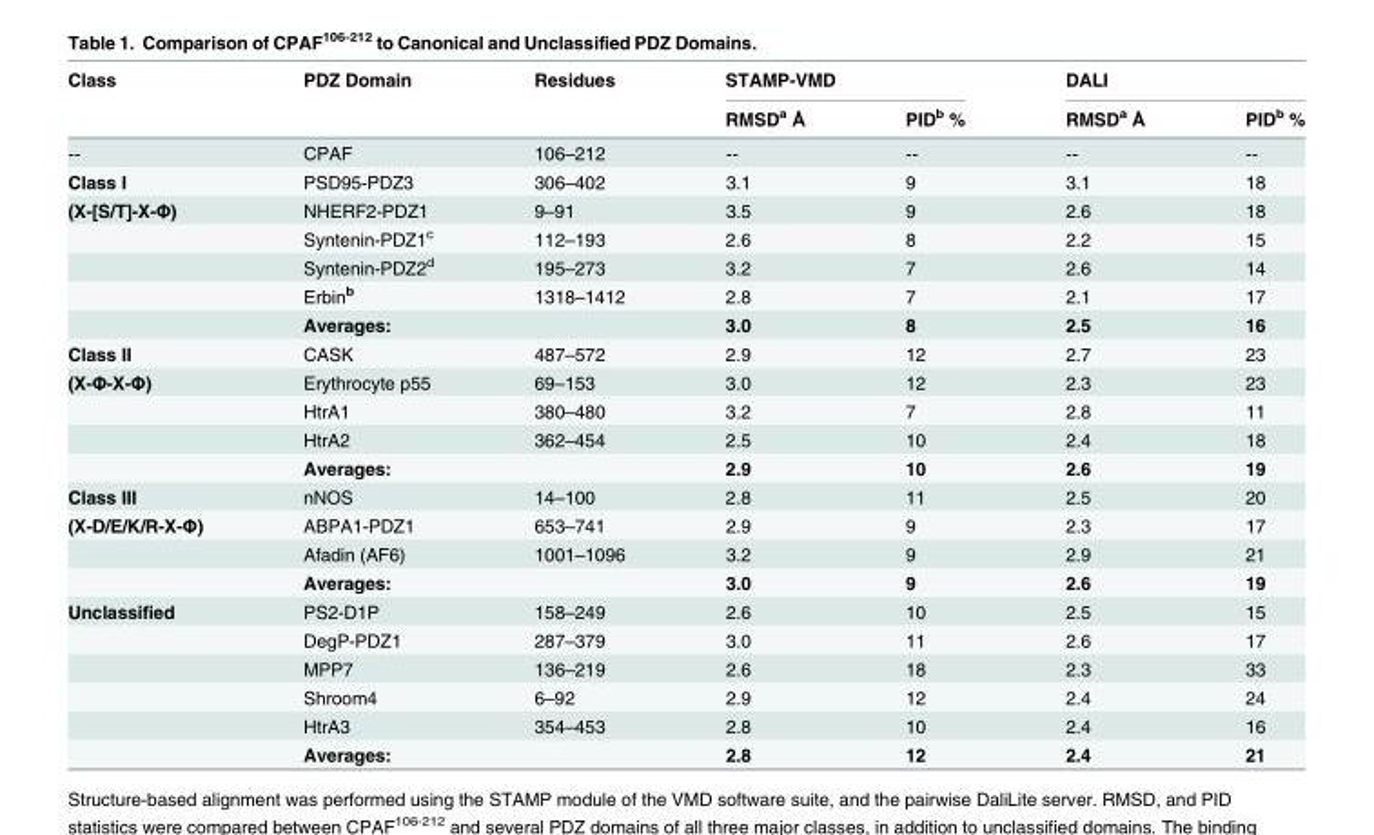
<table><thead><tr><td rowspan="2">Class</td><td rowspan="2">PDZ Domain</td><td rowspan="2">Residues</td><td colspan="2">STAMP-VMD</td><td colspan="2">DALI</td></tr><tr><td>RMSD<sup>a</sup> Å</td><td>PID<sup>b</sup> %</td><td>RMSD<sup>a</sup> Å</td><td>PID<sup>b</sup> %</td></tr></thead><tbody><tr><td>--</td><td>CPAF</td><td>106–212</td><td>--</td><td>--</td><td>--</td><td>--</td></tr><tr><td>Class I</td><td>PSD95-PDZ3</td><td>306–402</td><td>3.1</td><td>9</td><td>3.1</td><td>18</td></tr><tr><td rowspan="5">(X-[S/T]-X-Φ)</td><td>NHERF2-PDZ1</td><td>9–91</td><td>3.5</td><td>9</td><td>2.6</td><td>18</td></tr><tr><td>Syntenin-PDZ1<sup>c</sup></td><td>112–193</td><td>2.6</td><td>8</td><td>2.2</td><td>15</td></tr><tr><td>Syntenin-PDZ2<sup>d</sup></td><td>195–273</td><td>3.2</td><td>7</td><td>2.6</td><td>14</td></tr><tr><td>Erbin<sup>b</sup></td><td>1318–1412</td><td>2.8</td><td>7</td><td>2.1</td><td>17</td></tr><tr><td colspan="2">Averages:</td><td>3.0</td><td>8</td><td>2.5</td><td>16</td></tr><tr><td>Class II</td><td>CASK</td><td>487–572</td><td>2.9</td><td>12</td><td>2.7</td><td>23</td></tr><tr><td rowspan="4">(X-Φ-X-Φ)</td><td>Erythrocyte p55</td><td>69–153</td><td>3.0</td><td>12</td><td>2.3</td><td>23</td></tr><tr><td>HtrA1</td><td>380–480</td><td>3.2</td><td>7</td><td>2.8</td><td>11</td></tr><tr><td>HtrA2</td><td>362–454</td><td>2.5</td><td>10</td><td>2.4</td><td>18</td></tr><tr><td colspan="2">Averages:</td><td>2.9</td><td>10</td><td>2.6</td><td>19</td></tr><tr><td>Class III</td><td>nNOS</td><td>14–100</td><td>2.8</td><td>11</td><td>2.5</td><td>20</td></tr><tr><td rowspan="3">(X-D/E/K/R-X-Φ)</td><td>ABPA1-PDZ1</td><td>653–741</td><td>2.9</td><td>9</td><td>2.3</td><td>17</td></tr><tr><td>Afadin (AF6)</td><td>1001–1096</td><td>3.2</td><td>9</td><td>2.9</td><td>21</td></tr><tr><td colspan="2">Averages:</td><td>3.0</td><td>9</td><td>2.6</td><td>19</td></tr><tr><td rowspan="6">Unclassified</td><td>PS2-D1P</td><td>158–249</td><td>2.6</td><td>10</td><td>2.5</td><td>15</td></tr><tr><td>DegP-PDZ1</td><td>287–379</td><td>3.0</td><td>11</td><td>2.6</td><td>17</td></tr><tr><td>MPP7</td><td>136–219</td><td>2.6</td><td>18</td><td>2.3</td><td>33</td></tr><tr><td>Shroom4</td><td>6–92</td><td>2.9</td><td>12</td><td>2.4</td><td>24</td></tr><tr><td>HtrA3</td><td>354–453</td><td>2.8</td><td>10</td><td>2.4</td><td>16</td></tr><tr><td colspan="2">Averages:</td><td>2.8</td><td>12</td><td>2.4</td><td>21</td></tr></tbody></table>